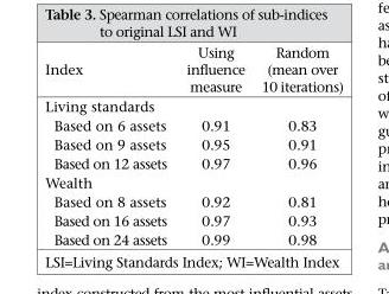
<table><thead><tr><td>Index</td><td>Using influence measure</td><td>Random (mean over 10 iterations)</td></tr></thead><tbody><tr><td colspan="3">Living standards</td></tr><tr><td>Based on 6 assets</td><td>0.91</td><td>0.83</td></tr><tr><td>Based on 9 assets</td><td>0.95</td><td>0.91</td></tr><tr><td>Based on 12 assets</td><td>0.97</td><td>0.96</td></tr><tr><td colspan="3">Wealth</td></tr><tr><td>Based on 8 assets</td><td>0.92</td><td>0.81</td></tr><tr><td>Based on 16 assets</td><td>0.97</td><td>0.93</td></tr><tr><td>Based on 24 assets</td><td>0.99</td><td>0.98</td></tr></tbody></table>